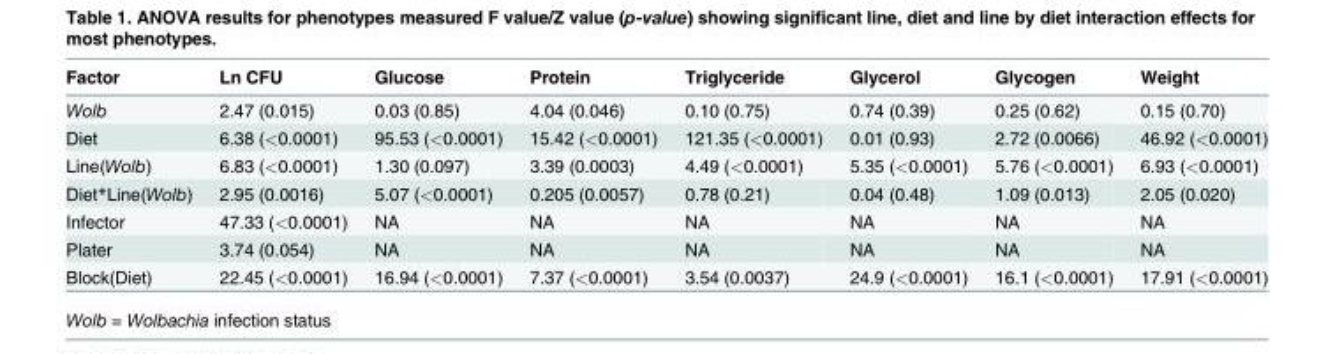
<table><thead><tr><td>Factor</td><td>Ln CFU</td><td>Glucose</td><td>Protein</td><td>Triglyceride</td><td>Glycerol</td><td>Glycogen</td><td>Weight</td></tr></thead><tbody><tr><td>Wolb</td><td>2.47 (0.015)</td><td>0.03 (0.85)</td><td>4.04 (0.046)</td><td>0.10 (0.75)</td><td>0.74 (0.39)</td><td>0.25 (0.62)</td><td>0.15 (0.70)</td></tr><tr><td>Diet</td><td>6.38 (&lt;0.0001)</td><td>95.53 (&lt;0.0001)</td><td>15.42 (&lt;0.0001)</td><td>121.35 (&lt;0.0001)</td><td>0.01 (0.93)</td><td>2.72 (0.0066)</td><td>46.92 (&lt;0.0001)</td></tr><tr><td>Line(Wolb)</td><td>6.83 (&lt;0.0001)</td><td>1.30 (0.097)</td><td>3.39 (0.0003)</td><td>4.49 (&lt;0.0001)</td><td>5.35 (&lt;0.0001)</td><td>5.76 (&lt;0.0001)</td><td>6.93 (&lt;0.0001)</td></tr><tr><td>Diet*Line(Wolb)</td><td>2.95 (0.0016)</td><td>5.07 (&lt;0.0001)</td><td>0.205 (0.0057)</td><td>0.78 (0.21)</td><td>0.04 (0.48)</td><td>1.09 (0.013)</td><td>2.05 (0.020)</td></tr><tr><td>Infector</td><td>47.33 (&lt;0.0001)</td><td>NA</td><td>NA</td><td>NA</td><td>NA</td><td>NA</td><td>NA</td></tr><tr><td>Plater</td><td>3.74 (0.054)</td><td>NA</td><td>NA</td><td>NA</td><td>NA</td><td>NA</td><td>NA</td></tr><tr><td>Block(Diet)</td><td>22.45 (&lt;0.0001)</td><td>16.94 (&lt;0.0001)</td><td>7.37 (&lt;0.0001)</td><td>3.54 (0.0037)</td><td>24.9 (&lt;0.0001)</td><td>16.1 (&lt;0.0001)</td><td>17.91 (&lt;0.0001)</td></tr></tbody></table>